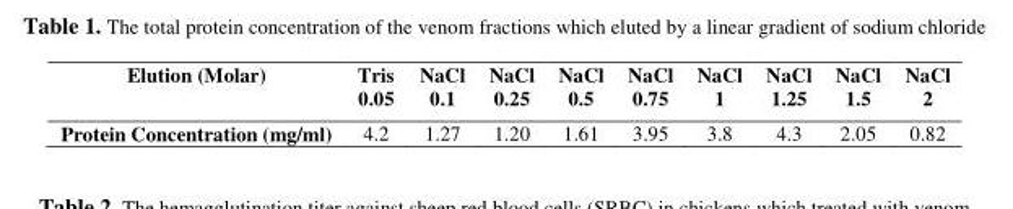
<table><thead><tr><td>Elution (Molar)</td><td>Tris 0.05</td><td>NaCl 0.1</td><td>NaCl 0.25</td><td>NaCl 0.5</td><td>NaCl 0.75</td><td>NaCl 1</td><td>NaCl 1.25</td><td>NaCl 1.5</td><td>NaCl 2</td></tr></thead><tbody><tr><td>Protein Concentration (mg/ml)</td><td>4.2</td><td>1.27</td><td>1.20</td><td>1.61</td><td>3.95</td><td>3.8</td><td>4.3</td><td>2.05</td><td>0.82</td></tr></tbody></table>